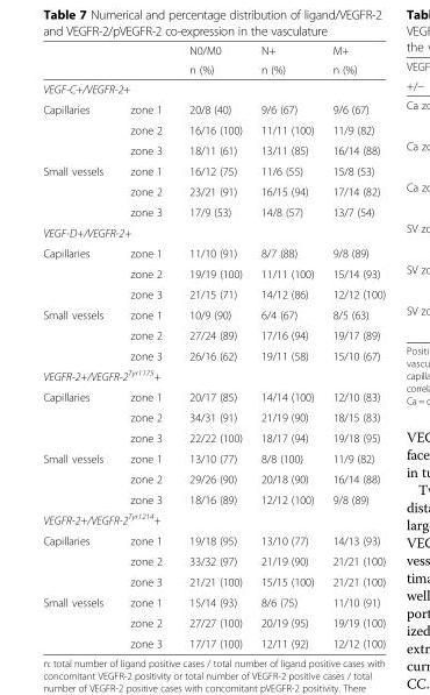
<table><thead><tr><td rowspan="2"></td><td rowspan="2"></td><td rowspan="2">N0/M0 n (%)</td><td rowspan="2">N+ n (%)</td><td rowspan="2">M+ n (%)</td></tr><tr></tr></thead><tbody><tr><td colspan="5">VEGF-C+/VEGFR-2+</td></tr><tr><td rowspan="3">Capillaries</td><td>zone 1</td><td>20/8 (40)</td><td>9/6 (67)</td><td>9/6 (67)</td></tr><tr><td>zone 2</td><td>16/16 (100)</td><td>11/11 (100)</td><td>11/9 (82)</td></tr><tr><td>zone 3</td><td>18/11 (61)</td><td>13/11 (85)</td><td>16/14 (88)</td></tr><tr><td rowspan="3">Small vessels</td><td>zone 1</td><td>16/12 (75)</td><td>11/6 (55)</td><td>15/8 (53)</td></tr><tr><td>zone 2</td><td>23/21 (91)</td><td>16/15 (94)</td><td>17/14 (82)</td></tr><tr><td>zone 3</td><td>17/9 (53)</td><td>14/8 (57)</td><td>13/7 (54)</td></tr><tr><td colspan="5">VEGF-D+/VEGFR-2+</td></tr><tr><td rowspan="3">Capillaries</td><td>zone 1</td><td>11/10 (91)</td><td>8/7 (88)</td><td>9/8 (89)</td></tr><tr><td>zone 2</td><td>19/19 (100)</td><td>11/11 (100)</td><td>15/14 (93)</td></tr><tr><td>zone 3</td><td>21/15 (71)</td><td>14/12 (86)</td><td>12/12 (100)</td></tr><tr><td rowspan="3">Small vessels</td><td>zone 1</td><td>10/9 (90)</td><td>6/4 (67)</td><td>8/5 (63)</td></tr><tr><td>zone 2</td><td>27/24 (89)</td><td>17/16 (94)</td><td>19/17 (89)</td></tr><tr><td>zone 3</td><td>26/16 (62)</td><td>19/11 (58)</td><td>15/10 (67)</td></tr><tr><td colspan="5">VEGFR-2+/VEGFR-2<sup>Tyr1175</sup>+</td></tr><tr><td rowspan="3">Capillaries</td><td>zone 1</td><td>20/17 (85)</td><td>14/14 (100)</td><td>12/10 (83)</td></tr><tr><td>zone 2</td><td>34/31 (91)</td><td>21/19 (90)</td><td>18/15 (83)</td></tr><tr><td>zone 3</td><td>22/22 (100)</td><td>18/17 (94)</td><td>19/18 (95)</td></tr><tr><td rowspan="3">Small vessels</td><td>zone 1</td><td>13/10 (77)</td><td>8/8 (100)</td><td>11/9 (82)</td></tr><tr><td>zone 2</td><td>29/26 (90)</td><td>20/18 (90)</td><td>16/14 (88)</td></tr><tr><td>zone 3</td><td>18/16 (89)</td><td>12/12 (100)</td><td>9/8 (89)</td></tr><tr><td colspan="5">VEGFR-2+/VEGFR-2<sup>Tyr1214</sup>+</td></tr><tr><td rowspan="3">Capillaries</td><td>zone 1</td><td>19/18 (95)</td><td>13/10 (77)</td><td>14/13 (93)</td></tr><tr><td>zone 2</td><td>33/32 (97)</td><td>21/19 (90)</td><td>21/21 (100)</td></tr><tr><td>zone 3</td><td>21/21 (100)</td><td>15/15 (100)</td><td>21/21 (100)</td></tr><tr><td rowspan="3">Small vessels</td><td>zone 1</td><td>15/14 (93)</td><td>8/6 (75)</td><td>11/10 (91)</td></tr><tr><td>zone 2</td><td>27/27 (100)</td><td>20/19 (95)</td><td>19/19 (100)</td></tr><tr><td>zone 3</td><td>17/17 (100)</td><td>12/11 (92)</td><td>12/12 (100)</td></tr></tbody></table>